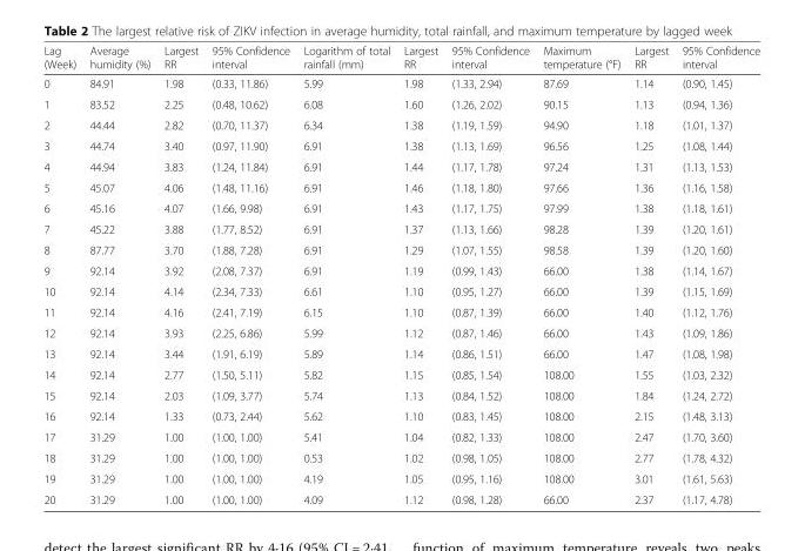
<table><thead><tr><td>Lag (Week)</td><td>Average humidity (%)</td><td>Largest RR</td><td>95% Confidence interval</td><td>Logarithm of total rainfall (mm)</td><td>Largest RR</td><td>95% Confidence interval</td><td>Maximum temperature (°F)</td><td>Largest RR</td><td>95% Confidence interval</td></tr></thead><tbody><tr><td>0</td><td>84.91</td><td>1.98</td><td>(0.33, 11.86)</td><td>5.99</td><td>1.98</td><td>(1.33, 2.94)</td><td>87.69</td><td>1.14</td><td>(0.90, 1.45)</td></tr><tr><td>1</td><td>83.52</td><td>2.25</td><td>(0.48, 10.62)</td><td>6.08</td><td>1.60</td><td>(1.26, 2.02)</td><td>90.15</td><td>1.13</td><td>(0.94, 1.36)</td></tr><tr><td>2</td><td>44.44</td><td>2.82</td><td>(0.70, 11.37)</td><td>6.34</td><td>1.38</td><td>(1.19, 1.59)</td><td>94.90</td><td>1.18</td><td>(1.01, 1.37)</td></tr><tr><td>3</td><td>44.74</td><td>3.40</td><td>(0.97, 11.90)</td><td>6.91</td><td>1.38</td><td>(1.13, 1.69)</td><td>96.56</td><td>1.25</td><td>(1.08, 1.44)</td></tr><tr><td>4</td><td>44.94</td><td>3.83</td><td>(1.24, 11.84)</td><td>6.91</td><td>1.44</td><td>(1.17, 1.78)</td><td>97.24</td><td>1.31</td><td>(1.13, 1.53)</td></tr><tr><td>5</td><td>45.07</td><td>4.06</td><td>(1.48, 11.16)</td><td>6.91</td><td>1.46</td><td>(1.18, 1.80)</td><td>97.66</td><td>1.36</td><td>(1.16, 1.58)</td></tr><tr><td>6</td><td>45.16</td><td>4.07</td><td>(1.66, 9.98)</td><td>6.91</td><td>1.43</td><td>(1.17, 1.75)</td><td>97.99</td><td>1.38</td><td>(1.18, 1.61)</td></tr><tr><td>7</td><td>45.22</td><td>3.88</td><td>(1.77, 8.52)</td><td>6.91</td><td>1.37</td><td>(1.13, 1.66)</td><td>98.28</td><td>1.39</td><td>(1.20, 1.61)</td></tr><tr><td>8</td><td>87.77</td><td>3.70</td><td>(1.88, 7.28)</td><td>6.91</td><td>1.29</td><td>(1.07, 1.55)</td><td>98.58</td><td>1.39</td><td>(1.20, 1.60)</td></tr><tr><td>9</td><td>92.14</td><td>3.92</td><td>(2.08, 7.37)</td><td>6.91</td><td>1.19</td><td>(0.99, 1.43)</td><td>66.00</td><td>1.38</td><td>(1.14, 1.67)</td></tr><tr><td>10</td><td>92.14</td><td>4.14</td><td>(2.34, 7.33)</td><td>6.61</td><td>1.10</td><td>(0.95, 1.27)</td><td>66.00</td><td>1.39</td><td>(1.15, 1.69)</td></tr><tr><td>11</td><td>92.14</td><td>4.16</td><td>(2.41, 7.19)</td><td>6.15</td><td>1.10</td><td>(0.87, 1.39)</td><td>66.00</td><td>1.40</td><td>(1.12, 1.76)</td></tr><tr><td>12</td><td>92.14</td><td>3.93</td><td>(2.25, 6.86)</td><td>5.99</td><td>1.12</td><td>(0.87, 1.46)</td><td>66.00</td><td>1.43</td><td>(1.09, 1.86)</td></tr><tr><td>13</td><td>92.14</td><td>3.44</td><td>(1.91, 6.19)</td><td>5.89</td><td>1.14</td><td>(0.86, 1.51)</td><td>66.00</td><td>1.47</td><td>(1.08, 1.98)</td></tr><tr><td>14</td><td>92.14</td><td>2.77</td><td>(1.50, 5.11)</td><td>5.82</td><td>1.15</td><td>(0.85, 1.54)</td><td>108.00</td><td>1.55</td><td>(1.03, 2.32)</td></tr><tr><td>15</td><td>92.14</td><td>2.03</td><td>(1.09, 3.77)</td><td>5.74</td><td>1.13</td><td>(0.84, 1.52)</td><td>108.00</td><td>1.84</td><td>(1.24, 2.72)</td></tr><tr><td>16</td><td>92.14</td><td>1.33</td><td>(0.73, 2.44)</td><td>5.62</td><td>1.10</td><td>(0.83, 1.45)</td><td>108.00</td><td>2.15</td><td>(1.48, 3.13)</td></tr><tr><td>17</td><td>31.29</td><td>1.00</td><td>(1.00, 1.00)</td><td>5.41</td><td>1.04</td><td>(0.82, 1.33)</td><td>108.00</td><td>2.47</td><td>(1.70, 3.60)</td></tr><tr><td>18</td><td>31.29</td><td>1.00</td><td>(1.00, 1.00)</td><td>0.53</td><td>1.02</td><td>(0.98, 1.05)</td><td>108.00</td><td>2.77</td><td>(1.78, 4.32)</td></tr><tr><td>19</td><td>31.29</td><td>1.00</td><td>(1.00, 1.00)</td><td>4.19</td><td>1.05</td><td>(0.95, 1.16)</td><td>108.00</td><td>3.01</td><td>(1.61, 5.63)</td></tr><tr><td>20</td><td>31.29</td><td>1.00</td><td>(1.00, 1.00)</td><td>4.09</td><td>1.12</td><td>(0.98, 1.28)</td><td>66.00</td><td>2.37</td><td>(1.17, 4.78)</td></tr></tbody></table>